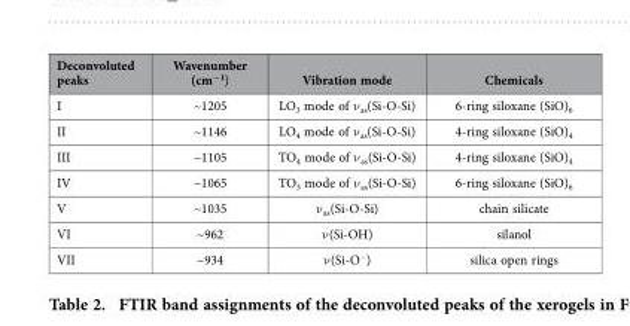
<table><thead><tr><td>Deconvoluted peaks</td><td>Wavenumber (cm<sup>−1</sup>)</td><td>Vibration mode</td><td>Chemicals</td></tr></thead><tbody><tr><td>I</td><td>~1205</td><td>LO<sub>3</sub> mode of ν <sub>as</sub>(Si-O-Si)</td><td>6-ring siloxane (SiO)<sub>6</sub></td></tr><tr><td>II</td><td>~1146</td><td>LO<sub>4</sub> mode of ν <sub>as</sub>(Si-O-Si)</td><td>4-ring siloxane (SiO)<sub>4</sub></td></tr><tr><td>III</td><td>~1105</td><td>TO<sub>4</sub> mode of ν <sub>as</sub>(Si-O-Si)</td><td>4-ring siloxane (SiO)<sub>4</sub></td></tr><tr><td>IV</td><td>~1065</td><td>TO<sub>3</sub> mode of ν <sub>as</sub>(Si-O-Si)</td><td>6-ring siloxane (SiO)<sub>6</sub></td></tr><tr><td>V</td><td>~1035</td><td>ν <sub>as</sub>(Si-O-Si)</td><td>chain silicate</td></tr><tr><td>VI</td><td>~962</td><td>ν (Si-OH)</td><td>silanol</td></tr><tr><td>VII</td><td>~934</td><td>ν (Si-O<sup>−</sup>)</td><td>silica open rings</td></tr></tbody></table>